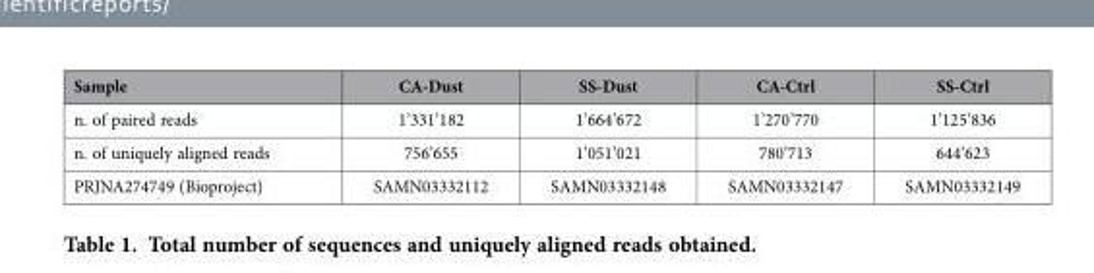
<table><thead><tr><td>Sample</td><td>CA-Dust</td><td>SS-Dust</td><td>CA-Ctrl</td><td>SS-Ctrl</td></tr></thead><tbody><tr><td>n. of paired reads</td><td>1’331’182</td><td>1’664’672</td><td>1’270’770</td><td>1’125’836</td></tr><tr><td>n. of uniquely aligned reads</td><td>756’655</td><td>1’051’021</td><td>780’713</td><td>644’623</td></tr><tr><td>PRJNA274749 (Bioproject)</td><td>SAMN03332112</td><td>SAMN03332148</td><td>SAMN03332147</td><td>SAMN03332149</td></tr></tbody></table>